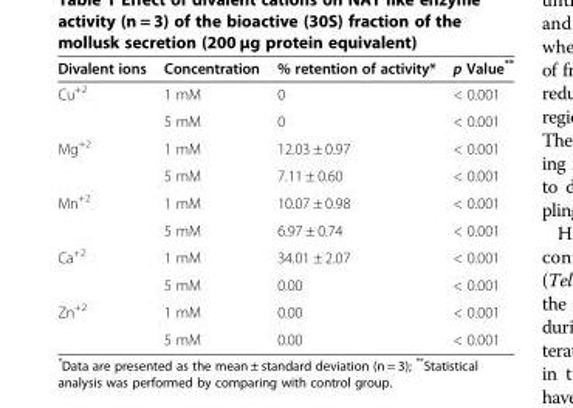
<table><thead><tr><td>Divalent ions</td><td>Concentration</td><td>% retention of activity*</td><td>p Value**</td></tr></thead><tbody><tr><td rowspan="2">Cu<sup>+2</sup></td><td>1 mM</td><td>0</td><td>&lt; 0.001</td></tr><tr><td>5 mM</td><td>0</td><td>&lt; 0.001</td></tr><tr><td rowspan="2">Mg<sup>+2</sup></td><td>1 mM</td><td>12.03 ± 0.97</td><td>&lt; 0.001</td></tr><tr><td>5 mM</td><td>7.11 ± 0.60</td><td>&lt; 0.001</td></tr><tr><td rowspan="2">Mn<sup>+2</sup></td><td>1 mM</td><td>10.07 ± 0.98</td><td>&lt; 0.001</td></tr><tr><td>5 mM</td><td>6.97 ± 0.74</td><td>&lt; 0.001</td></tr><tr><td rowspan="2">Ca<sup>+2</sup></td><td>1 mM</td><td>34.01 ± 2.07</td><td>&lt; 0.001</td></tr><tr><td>5 mM</td><td>0.00</td><td>&lt; 0.001</td></tr><tr><td rowspan="2">Zn<sup>+2</sup></td><td>1 mM</td><td>0.00</td><td>&lt; 0.001</td></tr><tr><td>5 mM</td><td>0.00</td><td>&lt; 0.001</td></tr></tbody></table>